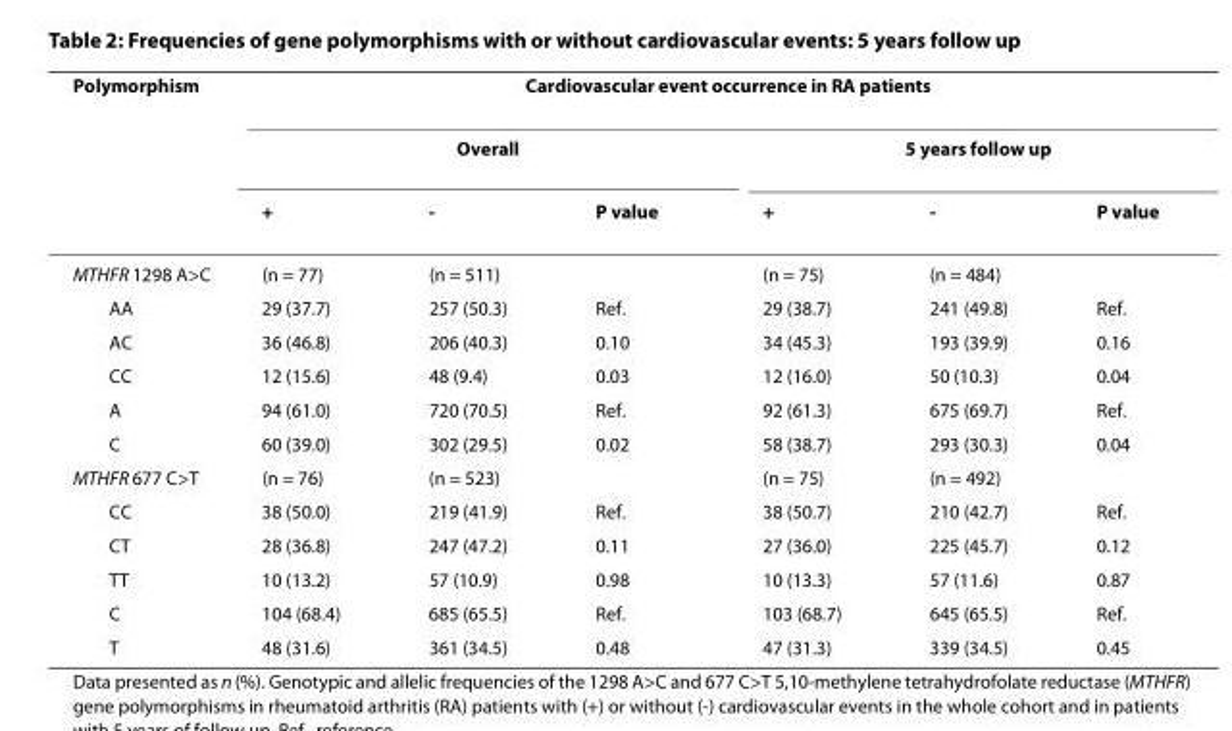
<table><thead><tr><td rowspan="3">Polymorphism</td><td colspan="6">Cardiovascular event occurrence in RA patients</td></tr><tr><td colspan="3">Overall</td><td colspan="3">5 years follow up</td></tr><tr><td>+</td><td>-</td><td>P value</td><td>+</td><td>-</td><td>P value</td></tr></thead><tbody><tr><td>MTHFR 1298 A&gt;C</td><td>(n = 77)</td><td>(n = 511)</td><td></td><td>(n = 75)</td><td>(n = 484)</td><td></td></tr><tr><td>AA</td><td>29 (37.7)</td><td>257 (50.3)</td><td>Ref.</td><td>29 (38.7)</td><td>241 (49.8)</td><td>Ref.</td></tr><tr><td>AC</td><td>36 (46.8)</td><td>206 (40.3)</td><td>0.10</td><td>34 (45.3)</td><td>193 (39.9)</td><td>0.16</td></tr><tr><td>CC</td><td>12 (15.6)</td><td>48 (9.4)</td><td>0.03</td><td>12 (16.0)</td><td>50 (10.3)</td><td>0.04</td></tr><tr><td>A</td><td>94 (61.0)</td><td>720 (70.5)</td><td>Ref.</td><td>92 (61.3)</td><td>675 (69.7)</td><td>Ref.</td></tr><tr><td>C</td><td>60 (39.0)</td><td>302 (29.5)</td><td>0.02</td><td>58 (38.7)</td><td>293 (30.3)</td><td>0.04</td></tr><tr><td>MTHFR 677 C&gt;T</td><td>(n = 76)</td><td>(n = 523)</td><td></td><td>(n = 75)</td><td>(n = 492)</td><td></td></tr><tr><td>CC</td><td>38 (50.0)</td><td>219 (41.9)</td><td>Ref.</td><td>38 (50.7)</td><td>210 (42.7)</td><td>Ref.</td></tr><tr><td>CT</td><td>28 (36.8)</td><td>247 (47.2)</td><td>0.11</td><td>27 (36.0)</td><td>225 (45.7)</td><td>0.12</td></tr><tr><td>TT</td><td>10 (13.2)</td><td>57 (10.9)</td><td>0.98</td><td>10 (13.3)</td><td>57 (11.6)</td><td>0.87</td></tr><tr><td>C</td><td>104 (68.4)</td><td>685 (65.5)</td><td>Ref.</td><td>103 (68.7)</td><td>645 (65.5)</td><td>Ref.</td></tr><tr><td>T</td><td>48 (31.6)</td><td>361 (34.5)</td><td>0.48</td><td>47 (31.3)</td><td>339 (34.5)</td><td>0.45</td></tr></tbody></table>